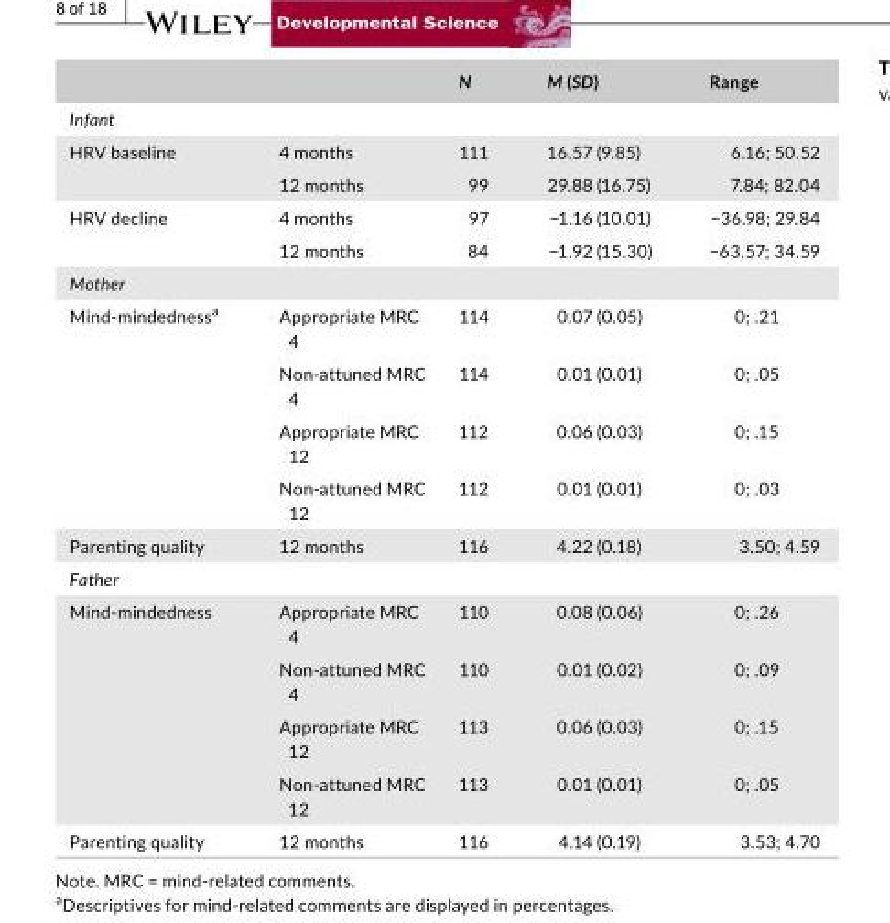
<table><thead><tr><td></td><td></td><td>N</td><td>M (SD)</td><td>Range</td></tr></thead><tbody><tr><td colspan="5">Infant</td></tr><tr><td rowspan="2">HRV baseline</td><td>4 months</td><td>111</td><td>16.57 (9.85)</td><td>6.16; 50.52</td></tr><tr><td>12 months</td><td>99</td><td>29.88 (16.75)</td><td>7.84; 82.04</td></tr><tr><td rowspan="2">HRV decline</td><td>4 months</td><td>97</td><td>−1.16 (10.01)</td><td>−36.98; 29.84</td></tr><tr><td>12 months</td><td>84</td><td>−1.92 (15.30)</td><td>−63.57; 34.59</td></tr><tr><td colspan="5">Mother</td></tr><tr><td rowspan="4">Mind- mindedness<sup>a</sup></td><td>Appropriate MRC 4</td><td>114</td><td>0.07 (0.05)</td><td>0; .21</td></tr><tr><td>Non- attuned MRC 4</td><td>114</td><td>0.01 (0.01)</td><td>0; .05</td></tr><tr><td>Appropriate MRC 12</td><td>112</td><td>0.06 (0.03)</td><td>0; .15</td></tr><tr><td>Non- attuned MRC 12</td><td>112</td><td>0.01 (0.01)</td><td>0; .03</td></tr><tr><td>Parenting quality</td><td>12 months</td><td>116</td><td>4.22 (0.18)</td><td>3.50; 4.59</td></tr><tr><td colspan="5">Father</td></tr><tr><td rowspan="4">Mind- mindedness</td><td>Appropriate MRC 4</td><td>110</td><td>0.08 (0.06)</td><td>0; .26</td></tr><tr><td>Non- attuned MRC 4</td><td>110</td><td>0.01 (0.02)</td><td>0; .09</td></tr><tr><td>Appropriate MRC 12</td><td>113</td><td>0.06 (0.03)</td><td>0; .15</td></tr><tr><td>Non- attuned MRC 12</td><td>113</td><td>0.01 (0.01)</td><td>0; .05</td></tr><tr><td>Parenting quality</td><td>12 months</td><td>116</td><td>4.14 (0.19)</td><td>3.53; 4.70</td></tr></tbody></table>